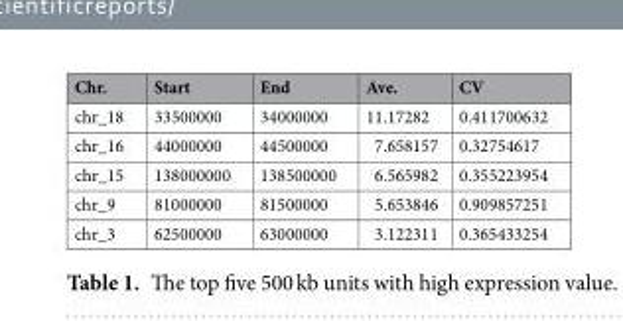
<table><thead><tr><td>Chr.</td><td>Start</td><td>End</td><td>Ave.</td><td>CV</td></tr></thead><tbody><tr><td>chr_18</td><td>33500000</td><td>34000000</td><td>11.17282</td><td>0.411700632</td></tr><tr><td>chr_16</td><td>44000000</td><td>44500000</td><td>7.658157</td><td>0.32754617</td></tr><tr><td>chr_15</td><td>138000000</td><td>138500000</td><td>6.565982</td><td>0.355223954</td></tr><tr><td>chr_9</td><td>81000000</td><td>81500000</td><td>5.653846</td><td>0.909857251</td></tr><tr><td>chr_3</td><td>62500000</td><td>63000000</td><td>3.122311</td><td>0.365433254</td></tr></tbody></table>